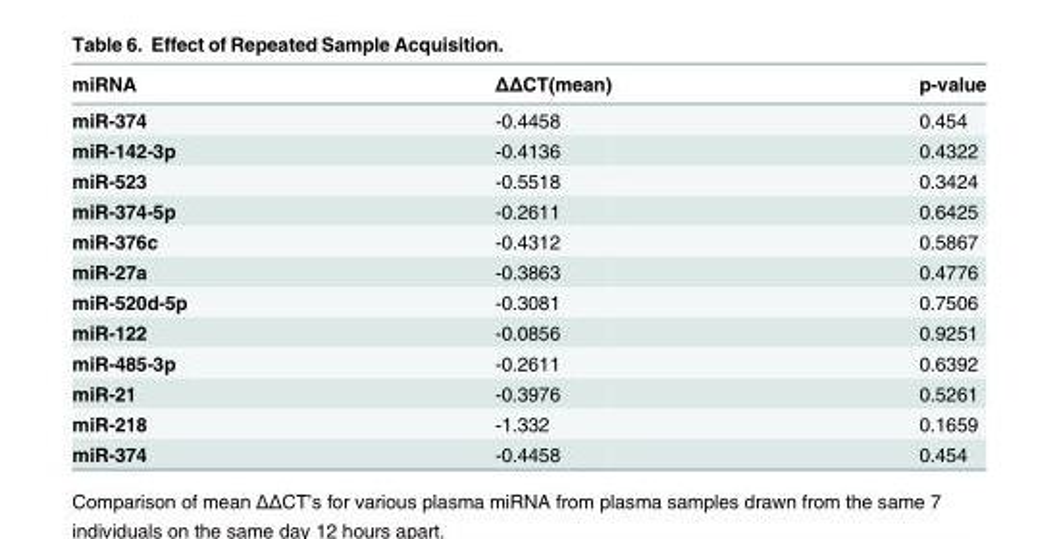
<table><thead><tr><td>miRNA</td><td>ΔΔCT(mean)</td><td>p-value</td></tr></thead><tbody><tr><td>miR-374</td><td>-0.4458</td><td>0.454</td></tr><tr><td>miR-142-3p</td><td>-0.4136</td><td>0.4322</td></tr><tr><td>miR-523</td><td>-0.5518</td><td>0.3424</td></tr><tr><td>miR-374-5p</td><td>-0.2611</td><td>0.6425</td></tr><tr><td>miR-376c</td><td>-0.4312</td><td>0.5867</td></tr><tr><td>miR-27a</td><td>-0.3863</td><td>0.4776</td></tr><tr><td>miR-520d-5p</td><td>-0.3081</td><td>0.7506</td></tr><tr><td>miR-122</td><td>-0.0856</td><td>0.9251</td></tr><tr><td>miR-485-3p</td><td>-0.2611</td><td>0.6392</td></tr><tr><td>miR-21</td><td>-0.3976</td><td>0.5261</td></tr><tr><td>miR-218</td><td>-1.332</td><td>0.1659</td></tr><tr><td>miR-374</td><td>-0.4458</td><td>0.454</td></tr></tbody></table>